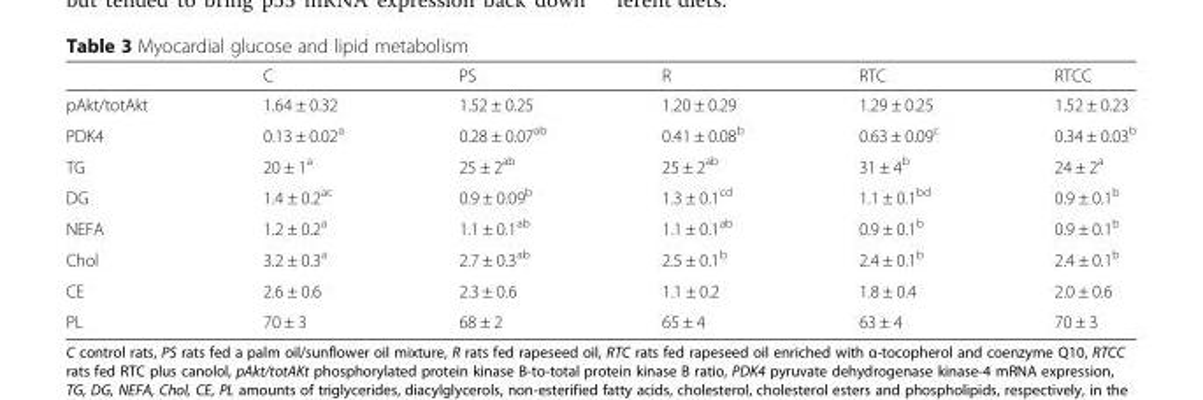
<table><thead><tr><td></td><td>C</td><td>PS</td><td>R</td><td>RTC</td><td>RTCC</td></tr></thead><tbody><tr><td>pAkt/totAkt</td><td>1.64 ± 0.32</td><td>1.52 ± 0.25</td><td>1.20 ± 0.29</td><td>1.29 ± 0.25</td><td>1.52 ± 0.23</td></tr><tr><td>PDK4</td><td>0.13 ± 0.02<sup>a</sup></td><td>0.28 ± 0.07<sup>ab</sup></td><td>0.41 ± 0.08<sup>b</sup></td><td>0.63 ± 0.09<sup>c</sup></td><td>0.34 ± 0.03<sup>b</sup></td></tr><tr><td>TG</td><td>20 ± 1<sup>a</sup></td><td>25 ± 2<sup>ab</sup></td><td>25 ± 2<sup>ab</sup></td><td>31 ± 4<sup>b</sup></td><td>24 ± 2<sup>a</sup></td></tr><tr><td>DG</td><td>1.4 ± 0.2<sup>ac</sup></td><td>0.9 ± 0.09<sup>b</sup></td><td>1.3 ± 0.1<sup>cd</sup></td><td>1.1 ± 0.1<sup>bd</sup></td><td>0.9 ± 0.1<sup>b</sup></td></tr><tr><td>NEFA</td><td>1.2 ± 0.2<sup>a</sup></td><td>1.1 ± 0.1<sup>ab</sup></td><td>1.1 ± 0.1<sup>ab</sup></td><td>0.9 ± 0.1<sup>b</sup></td><td>0.9 ± 0.1<sup>b</sup></td></tr><tr><td>Chol</td><td>3.2 ± 0.3<sup>a</sup></td><td>2.7 ± 0.3<sup>ab</sup></td><td>2.5 ± 0.1<sup>b</sup></td><td>2.4 ± 0.1<sup>b</sup></td><td>2.4 ± 0.1<sup>b</sup></td></tr><tr><td>CE</td><td>2.6 ± 0.6</td><td>2.3 ± 0.6</td><td>1.1 ± 0.2</td><td>1.8 ± 0.4</td><td>2.0 ± 0.6</td></tr><tr><td>PL</td><td>70 ± 3</td><td>68 ± 2</td><td>65 ± 4</td><td>63 ± 4</td><td>70 ± 3</td></tr></tbody></table>